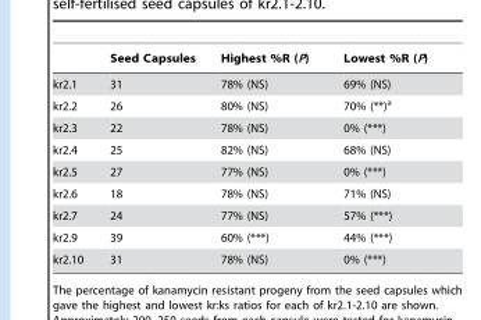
<table><thead><tr><td></td><td>Seed Capsules</td><td>Highest %R (P)</td><td>Lowest %R (P)</td></tr></thead><tbody><tr><td>kr2.1</td><td>31</td><td>78% (NS)</td><td>69% (NS)</td></tr><tr><td>kr2.2</td><td>26</td><td>80% (NS)</td><td>70% (**)<sup>a</sup></td></tr><tr><td>kr2.3</td><td>22</td><td>78% (NS)</td><td>0% (***)</td></tr><tr><td>kr2.4</td><td>25</td><td>82% (NS)</td><td>68% (NS)</td></tr><tr><td>kr2.5</td><td>27</td><td>77% (NS)</td><td>0% (***)</td></tr><tr><td>kr2.6</td><td>18</td><td>78% (NS)</td><td>71% (NS)</td></tr><tr><td>kr2.7</td><td>24</td><td>77% (NS)</td><td>57% (***)</td></tr><tr><td>kr2.9</td><td>39</td><td>60% (***)</td><td>44% (***)</td></tr><tr><td>kr2.10</td><td>31</td><td>78% (NS)</td><td>0% (***)</td></tr></tbody></table>